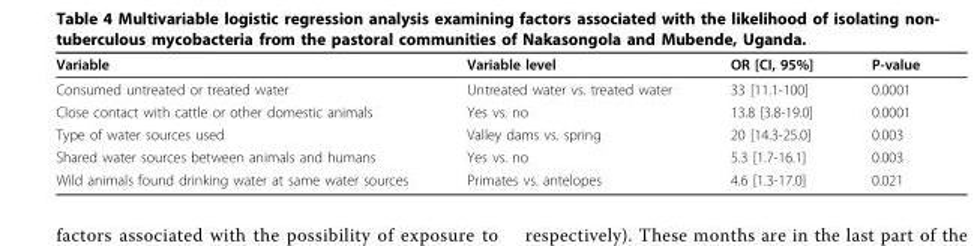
<table><thead><tr><td>Variable</td><td>Variable level</td><td>OR [CI, 95%]</td><td>P-value</td></tr></thead><tbody><tr><td>Consumed untreated or treated water</td><td>Untreated water vs. treated water</td><td>33 [11.1-100]</td><td>0.0001</td></tr><tr><td>Close contact with cattle or other domestic animals</td><td>Yes vs. no</td><td>13.8 [3.8-19.0]</td><td>0.0001</td></tr><tr><td>Type of water sources used</td><td>Valley dams vs. spring</td><td>20 [14.3-25.0]</td><td>0.003</td></tr><tr><td>Shared water sources between animals and humans</td><td>Yes vs. no</td><td>5.3 [1.7-16.1]</td><td>0.003</td></tr><tr><td>Wild animals found drinking water at same water sources</td><td>Primates vs. antelopes</td><td>4.6 [1.3-17.0]</td><td>0.021</td></tr></tbody></table>